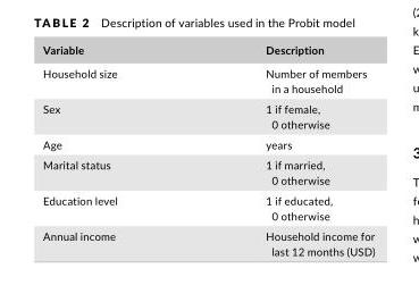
<table><thead><tr><td>Variable</td><td>Description</td></tr></thead><tbody><tr><td>Household size</td><td>Number of members in a household</td></tr><tr><td>Sex</td><td>1 if female, 0 otherwise</td></tr><tr><td>Age</td><td>years</td></tr><tr><td>Marital status</td><td>1 if married, 0 otherwise</td></tr><tr><td>Education level</td><td>1 if educated, 0 otherwise</td></tr><tr><td>Annual income</td><td>Household income for last 12 months (USD)</td></tr></tbody></table>